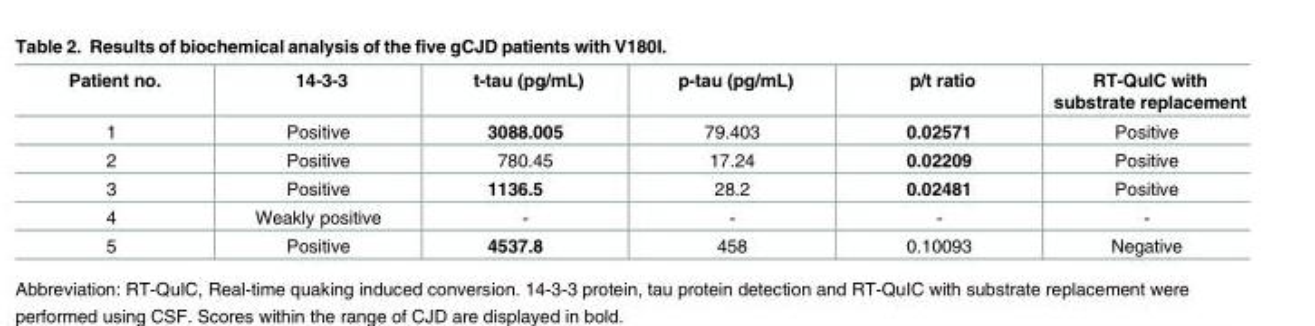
<table><thead><tr><td>Patient no.</td><td>14-3-3</td><td>t-tau (pg/mL)</td><td>p-tau (pg/mL)</td><td>p/t ratio</td><td>RT-QuIC with substrate replacement</td></tr></thead><tbody><tr><td>1</td><td>Positive</td><td>3088.005</td><td>79.403</td><td>0.02571</td><td>Positive</td></tr><tr><td>2</td><td>Positive</td><td>780.45</td><td>17.24</td><td>0.02209</td><td>Positive</td></tr><tr><td>3</td><td>Positive</td><td>1136.5</td><td>28.2</td><td>0.02481</td><td>Positive</td></tr><tr><td>4</td><td>Weakly positive</td><td>-</td><td>-</td><td>-</td><td>-</td></tr><tr><td>5</td><td>Positive</td><td>4537.8</td><td>458</td><td>0.10093</td><td>Negative</td></tr></tbody></table>